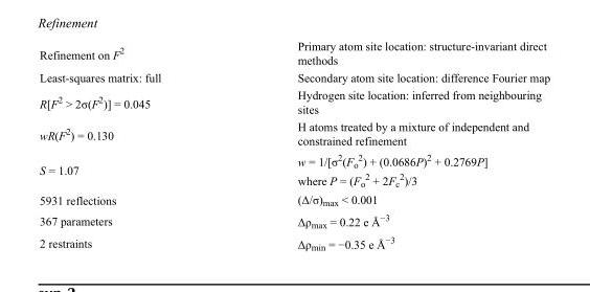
<table><tbody><tr><td>Refinement on F<sup>2</sup></td><td>Primary atom site location: structure-invariant direct methods</td></tr><tr><td>Least-squares matrix: full</td><td>Secondary atom site location: difference Fourier map</td></tr><tr><td>R[F<sup>2</sup> &gt; 2σ(F<sup>2</sup>)] = 0.045</td><td>Hydrogen site location: inferred from neighbouring sites</td></tr><tr><td>wR(F<sup>2</sup>) = 0.130</td><td>H atoms treated by a mixture of independent and constrained refinement</td></tr><tr><td>S = 1.07</td><td>w = 1/[σ<sup>2</sup>(F<sub>o</sub> <sup>2</sup>) + (0.0686P)<sup>2</sup> + 0.2769P] where P = (F<sub>o</sub> <sup>2</sup> + 2F<sub>c</sub> <sup>2</sup>)/3</td></tr><tr><td>5931 reflections</td><td>(Δ/σ)<sub>max</sub> &lt; 0.001</td></tr><tr><td>367 parameters</td><td>Δρ<sub>max</sub> = 0.22 e Å<sup>−3</sup></td></tr><tr><td>2 restraints</td><td>Δρ<sub>min</sub> = −0.35 e Å<sup>−3</sup></td></tr></tbody></table>